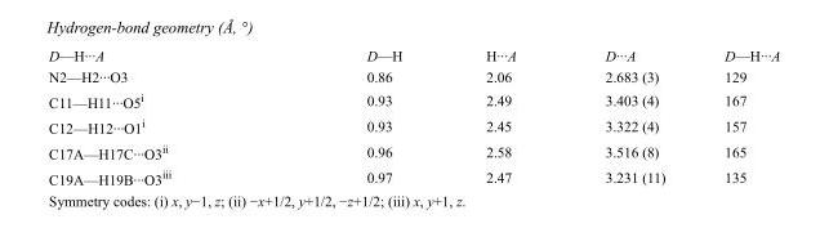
<table><tbody><tr><td>D—H···A</td><td>D—H</td><td>H···A</td><td>D···A</td><td>D—H···A</td></tr><tr><td>N2—H2···O3</td><td>0.86</td><td>2.06</td><td>2.683 (3)</td><td>129</td></tr><tr><td>C11—H11···O5<sup>i</sup></td><td>0.93</td><td>2.49</td><td>3.403 (4)</td><td>167</td></tr><tr><td>C12—H12···O1<sup>i</sup></td><td>0.93</td><td>2.45</td><td>3.322 (4)</td><td>157</td></tr><tr><td>C17A—H17C···O3<sup>ii</sup></td><td>0.96</td><td>2.58</td><td>3.516 (8)</td><td>165</td></tr><tr><td>C19A—H19B···O3<sup>iii</sup></td><td>0.97</td><td>2.47</td><td>3.231 (11)</td><td>135</td></tr></tbody></table>